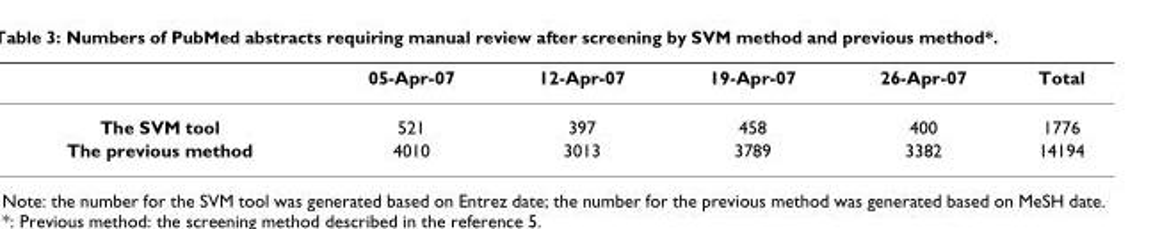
<table><thead><tr><td></td><td>05-Apr-07</td><td>12-Apr-07</td><td>19-Apr-07</td><td>26-Apr-07</td><td>Total</td></tr></thead><tbody><tr><td>The SVM tool</td><td>521</td><td>397</td><td>458</td><td>400</td><td>1776</td></tr><tr><td>The previous method</td><td>4010</td><td>3013</td><td>3789</td><td>3382</td><td>14194</td></tr></tbody></table>